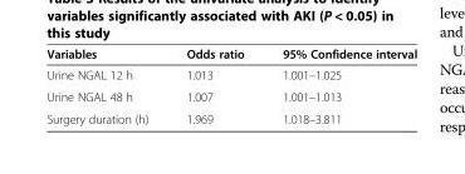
<table><thead><tr><td>Variables</td><td>Odds ratio</td><td>95% Confidence interval</td></tr></thead><tbody><tr><td>Urine NGAL 12 h</td><td>1.013</td><td>1.001–1.025</td></tr><tr><td>Urine NGAL 48 h</td><td>1.007</td><td>1.001–1.013</td></tr><tr><td>Surgery duration (h)</td><td>1.969</td><td>1.018–3.811</td></tr></tbody></table>